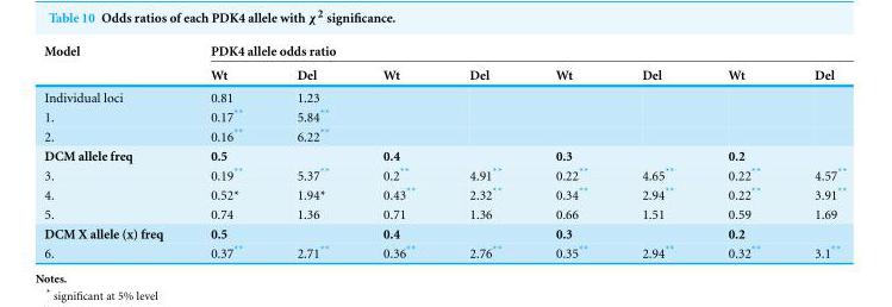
<table><thead><tr><td rowspan="2">Model</td><td colspan="8">PDK4 allele odds ratio</td></tr><tr><td>Wt</td><td>Del</td><td>Wt</td><td>Del</td><td>Wt</td><td>Del</td><td>Wt</td><td>Del</td></tr></thead><tbody><tr><td>Individual loci</td><td>0.81</td><td>1.23</td><td></td><td></td><td></td><td></td><td></td><td></td></tr><tr><td>1.</td><td>0.17**</td><td>5.84**</td><td></td><td></td><td></td><td></td><td></td><td></td></tr><tr><td>2.</td><td>0.16**</td><td>6.22**</td><td></td><td></td><td></td><td></td><td></td><td></td></tr><tr><td>DCM allele freq</td><td colspan="2">0.5</td><td colspan="2">0.4</td><td colspan="2">0.3</td><td colspan="2">0.2</td></tr><tr><td>3.</td><td>0.19**</td><td>5.37**</td><td>0.2**</td><td>4.91**</td><td>0.22**</td><td>4.65**</td><td>0.22**</td><td>4.57**</td></tr><tr><td>4.</td><td>0.52*</td><td>1.94*</td><td>0.43**</td><td>2.32**</td><td>0.34**</td><td>2.94**</td><td>0.22**</td><td>3.91**</td></tr><tr><td>5.</td><td>0.74</td><td>1.36</td><td>0.71</td><td>1.36</td><td>0.66</td><td>1.51</td><td>0.59</td><td>1.69</td></tr><tr><td>DCM X allele (x) freq</td><td colspan="2">0.5</td><td colspan="2">0.4</td><td colspan="2">0.3</td><td colspan="2">0.2</td></tr><tr><td>6.</td><td>0.37**</td><td>2.71**</td><td>0.36**</td><td>2.76**</td><td>0.35**</td><td>2.94**</td><td>0.32**</td><td>3.1**</td></tr></tbody></table>